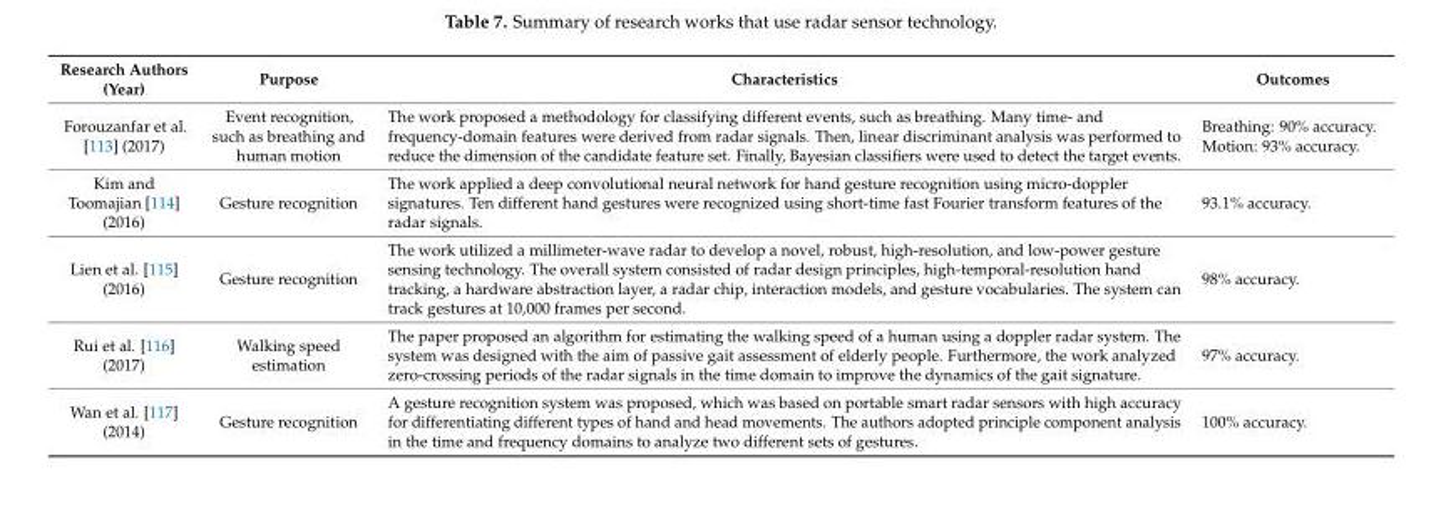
<table><thead><tr><td>Research Authors (Year)</td><td>Purpose</td><td>Characteristics</td><td>Outcomes</td></tr></thead><tbody><tr><td>Forouzanfar et al. [113] (2017)</td><td>Event recognition, such as breathing and human motion</td><td>The work proposed a methodology for classifying different events, such as breathing. Many time- and frequency-domain features were derived from radar signals. Then, linear discriminant analysis was performed to reduce the dimension of the candidate feature set. Finally, Bayesian classifiers were used to detect the target events.</td><td>Breathing: 90% accuracy. Motion: 93% accuracy.</td></tr><tr><td>Kim and Toomajian [114] (2016)</td><td>Gesture recognition</td><td>The work applied a deep convolutional neural network for hand gesture recognition using micro-doppler signatures. Ten different hand gestures were recognized using short-time fast Fourier transform features of the radar signals.</td><td>93.1% accuracy.</td></tr><tr><td>Lien et al. [115] (2016)</td><td>Gesture recognition</td><td>The work utilized a millimeter-wave radar to develop a novel, robust, high-resolution, and low-power gesture sensing technology. The overall system consisted of radar design principles, high-temporal-resolution hand tracking, a hardware abstraction layer, a radar chip, interaction models, and gesture vocabularies. The system can track gestures at 10,000 frames per second.</td><td>98% accuracy.</td></tr><tr><td>Rui et al. [116] (2017)</td><td>Walking speed estimation</td><td>The paper proposed an algorithm for estimating the walking speed of a human using a doppler radar system. The system was designed with the aim of passive gait assessment of elderly people. Furthermore, the work analyzed zero-crossing periods of the radar signals in the time domain to improve the dynamics of the gait signature.</td><td>97% accuracy.</td></tr><tr><td>Wan et al. [117] (2014)</td><td>Gesture recognition</td><td>A gesture recognition system was proposed, which was based on portable smart radar sensors with high accuracy for differentiating different types of hand and head movements. The authors adopted principle component analysis in the time and frequency domains to analyze two different sets of gestures.</td><td>100% accuracy.</td></tr></tbody></table>